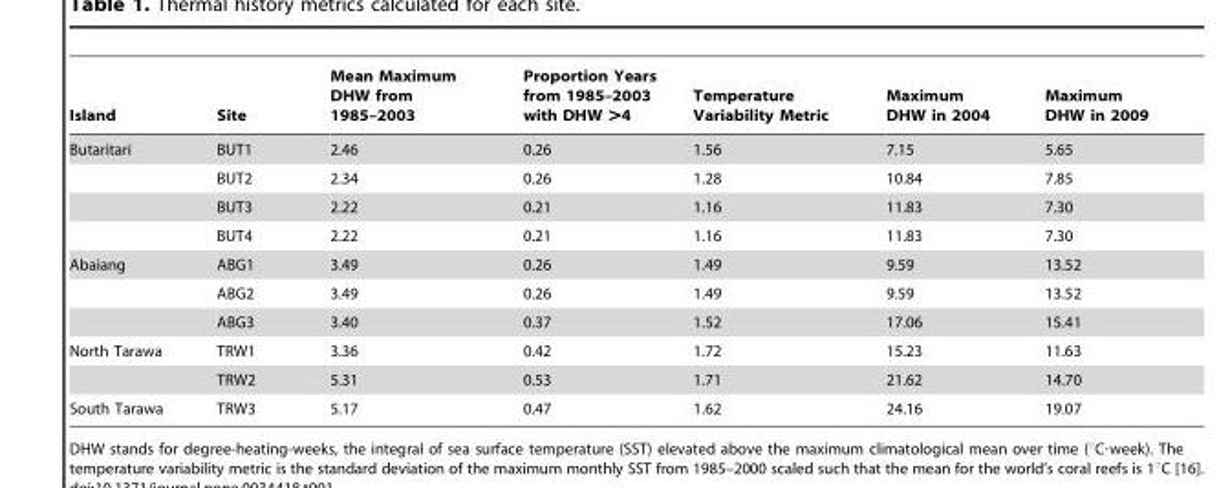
<table><thead><tr><td>Island</td><td>Site</td><td>Mean Maximum DHW from 1985–2003</td><td>Proportion Years from 1985–2003 with DHW &gt;4</td><td>Temperature Variability Metric</td><td>Maximum DHW in 2004</td><td>Maximum DHW in 2009</td></tr></thead><tbody><tr><td rowspan="4">Butaritari</td><td>BUT1</td><td>2.46</td><td>0.26</td><td>1.56</td><td>7.15</td><td>5.65</td></tr><tr><td>BUT2</td><td>2.34</td><td>0.26</td><td>1.28</td><td>10.84</td><td>7.85</td></tr><tr><td>BUT3</td><td>2.22</td><td>0.21</td><td>1.16</td><td>11.83</td><td>7.30</td></tr><tr><td>BUT4</td><td>2.22</td><td>0.21</td><td>1.16</td><td>11.83</td><td>7.30</td></tr><tr><td rowspan="3">Abaiang</td><td>ABG1</td><td>3.49</td><td>0.26</td><td>1.49</td><td>9.59</td><td>13.52</td></tr><tr><td>ABG2</td><td>3.49</td><td>0.26</td><td>1.49</td><td>9.59</td><td>13.52</td></tr><tr><td>ABG3</td><td>3.40</td><td>0.37</td><td>1.52</td><td>17.06</td><td>15.41</td></tr><tr><td rowspan="2">North Tarawa</td><td>TRW1</td><td>3.36</td><td>0.42</td><td>1.72</td><td>15.23</td><td>11.63</td></tr><tr><td>TRW2</td><td>5.31</td><td>0.53</td><td>1.71</td><td>21.62</td><td>14.70</td></tr><tr><td>South Tarawa</td><td>TRW3</td><td>5.17</td><td>0.47</td><td>1.62</td><td>24.16</td><td>19.07</td></tr></tbody></table>